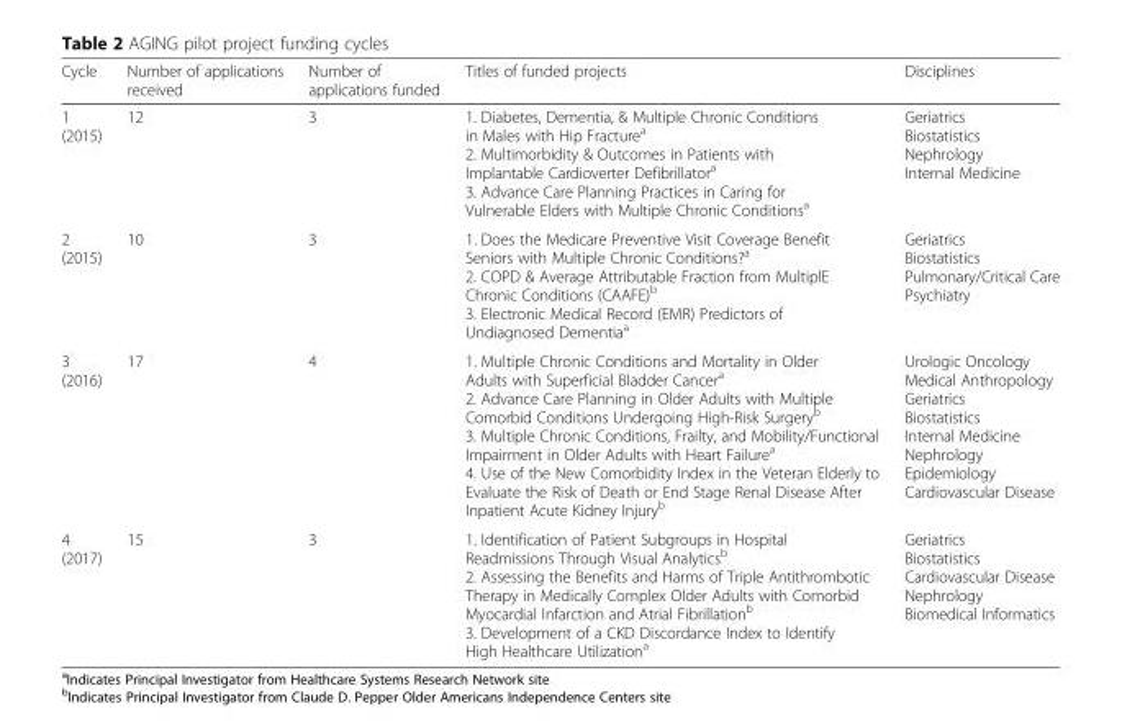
<table><thead><tr><td>Cycle</td><td>Number of applications received</td><td>Number of applications funded</td><td>Titles of funded projects</td><td>Disciplines</td></tr></thead><tbody><tr><td>1 (2015)</td><td>12</td><td>3</td><td>1. Diabetes, Dementia, &amp; Multiple Chronic Conditions in Males with Hip Fracture<sup>a</sup> 2. Multimorbidity &amp; Outcomes in Patients with Implantable Cardioverter Defibrillator<sup>a</sup> 3. Advance Care Planning Practices in Caring for Vulnerable Elders with Multiple Chronic Conditions<sup>a</sup></td><td>Geriatrics Biostatistics Nephrology Internal Medicine</td></tr><tr><td>2 (2015)</td><td>10</td><td>3</td><td>1. Does the Medicare Preventive Visit Coverage Benefit Seniors with Multiple Chronic Conditions?<sup>a</sup> 2. COPD &amp; Average Attributable Fraction from MultiplE Chronic Conditions (CAAFE)<sup>b</sup> 3. Electronic Medical Record (EMR) Predictors of Undiagnosed Dementia<sup>a</sup></td><td>Geriatrics Biostatistics Pulmonary/Critical Care Psychiatry</td></tr><tr><td>3 (2016)</td><td>17</td><td>4</td><td>1. Multiple Chronic Conditions and Mortality in Older Adults with Superficial Bladder Cancer<sup>a</sup> 2. Advance Care Planning in Older Adults with Multiple Comorbid Conditions Undergoing High-Risk Surgery<sup>b</sup> 3. Multiple Chronic Conditions, Frailty, and Mobility/Functional Impairment in Older Adults with Heart Failure<sup>a</sup> 4. Use of the New Comorbidity Index in the Veteran Elderly to Evaluate the Risk of Death or End Stage Renal Disease After Inpatient Acute Kidney Injury<sup>b</sup></td><td>Urologic Oncology Medical Anthropology Geriatrics Biostatistics Internal Medicine Nephrology Epidemiology Cardiovascular Disease</td></tr><tr><td>4 (2017)</td><td>15</td><td>3</td><td>1. Identification of Patient Subgroups in Hospital Readmissions Through Visual Analytics<sup>b</sup> 2. Assessing the Benefits and Harms of Triple Antithrombotic Therapy in Medically Complex Older Adults with Comorbid Myocardial Infarction and Atrial Fibrillation<sup>b</sup> 3. Development of a CKD Discordance Index to Identify High Healthcare Utilization<sup>a</sup></td><td>Geriatrics Biostatistics Cardiovascular Disease Nephrology Biomedical Informatics</td></tr></tbody></table>